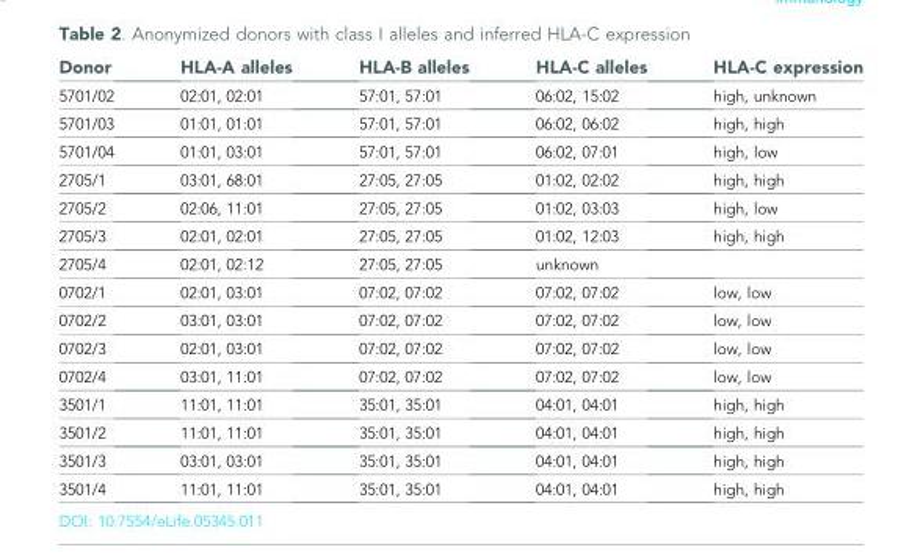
<table><thead><tr><td>Donor</td><td>HLA-A alleles</td><td>HLA-B alleles</td><td>HLA-C alleles</td><td>HLA-C expression</td></tr></thead><tbody><tr><td>5701/02</td><td>02:01, 02:01</td><td>57:01, 57:01</td><td>06:02, 15:02</td><td>high, unknown</td></tr><tr><td>5701/03</td><td>01:01, 01:01</td><td>57:01, 57:01</td><td>06:02, 06:02</td><td>high, high</td></tr><tr><td>5701/04</td><td>01:01, 03:01</td><td>57:01, 57:01</td><td>06:02, 07:01</td><td>high, low</td></tr><tr><td>2705/1</td><td>03:01, 68:01</td><td>27:05, 27:05</td><td>01:02, 02:02</td><td>high, high</td></tr><tr><td>2705/2</td><td>02:06, 11:01</td><td>27:05, 27:05</td><td>01:02, 03:03</td><td>high, low</td></tr><tr><td>2705/3</td><td>02:01, 02:01</td><td>27:05, 27:05</td><td>01:02, 12:03</td><td>high, high</td></tr><tr><td>2705/4</td><td>02:01, 02:12</td><td>27:05, 27:05</td><td>unknown</td><td></td></tr><tr><td>0702/1</td><td>02:01, 03:01</td><td>07:02, 07:02</td><td>07:02, 07:02</td><td>low, low</td></tr><tr><td>0702/2</td><td>03:01, 03:01</td><td>07:02, 07:02</td><td>07:02, 07:02</td><td>low, low</td></tr><tr><td>0702/3</td><td>02:01, 03:01</td><td>07:02, 07:02</td><td>07:02, 07:02</td><td>low, low</td></tr><tr><td>0702/4</td><td>03:01, 11:01</td><td>07:02, 07:02</td><td>07:02, 07:02</td><td>low, low</td></tr><tr><td>3501/1</td><td>11:01, 11:01</td><td>35:01, 35:01</td><td>04:01, 04:01</td><td>high, high</td></tr><tr><td>3501/2</td><td>11:01, 11:01</td><td>35:01, 35:01</td><td>04:01, 04:01</td><td>high, high</td></tr><tr><td>3501/3</td><td>03:01, 03:01</td><td>35:01, 35:01</td><td>04:01, 04:01</td><td>high, high</td></tr><tr><td>3501/4</td><td>11:01, 11:01</td><td>35:01, 35:01</td><td>04:01, 04:01</td><td>high, high</td></tr></tbody></table>